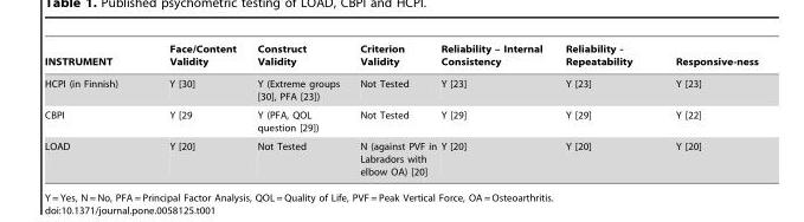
<table><thead><tr><td>INSTRUMENT</td><td>Face/Content Validity</td><td>Construct Validity</td><td>Criterion Validity</td><td>Reliability – Internal Consistency</td><td>Reliability - Repeatability</td><td>Responsive-ness</td></tr></thead><tbody><tr><td>HCPI (in Finnish)</td><td>Y [30]</td><td>Y (Extreme groups [30], PFA [23])</td><td>Not Tested</td><td>Y [23]</td><td>Y [23]</td><td>Y [23]</td></tr><tr><td>CBPI</td><td>Y [29</td><td>Y (PFA, QOL question [29])</td><td>Not Tested</td><td>Y [29]</td><td>Y [29]</td><td>Y [22]</td></tr><tr><td>LOAD</td><td>Y [20]</td><td>Not Tested</td><td>N (against PVF in Labradors with elbow OA) [20]</td><td>Y [20]</td><td>Y [20]</td><td>Y [20]</td></tr></tbody></table>